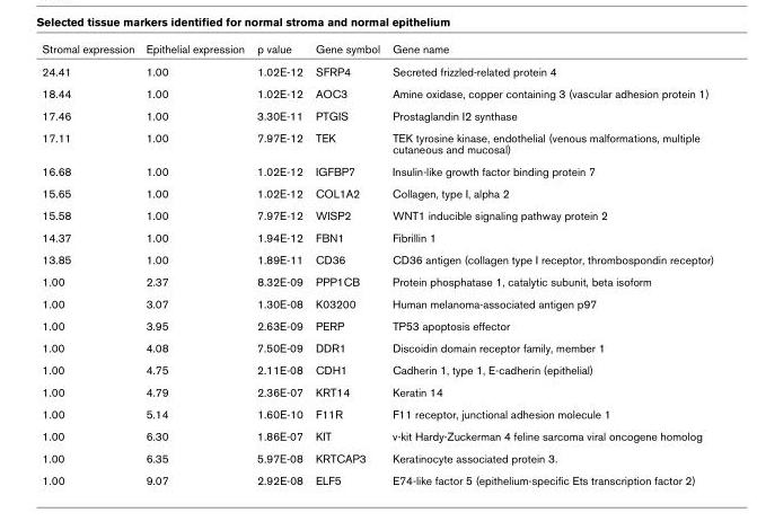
<table><thead><tr><td>Stromal expression</td><td>Epithelial expression</td><td>p value</td><td>Gene symbol</td><td>Gene name</td></tr></thead><tbody><tr><td>24.41</td><td>1.00</td><td>1.02E-12</td><td>SFRP4</td><td>Secreted frizzled-related protein 4</td></tr><tr><td>18.44</td><td>1.00</td><td>1.02E-12</td><td>AOC3</td><td>Amine oxidase, copper containing 3 (vascular adhesion protein 1)</td></tr><tr><td>17.46</td><td>1.00</td><td>3.30E-11</td><td>PTGIS</td><td>Prostaglandin I2 synthase</td></tr><tr><td>17.11</td><td>1.00</td><td>7.97E-12</td><td>TEK</td><td>TEK tyrosine kinase, endothelial (venous malformations, multiple cutaneous and mucosal)</td></tr><tr><td>16.68</td><td>1.00</td><td>1.02E-12</td><td>IGFBP7</td><td>Insulin-like growth factor binding protein 7</td></tr><tr><td>15.65</td><td>1.00</td><td>1.02E-12</td><td>COL1A2</td><td>Collagen, type I, alpha 2</td></tr><tr><td>15.58</td><td>1.00</td><td>7.97E-12</td><td>WISP2</td><td>WNT1 inducible signaling pathway protein 2</td></tr><tr><td>14.37</td><td>1.00</td><td>1.94E-12</td><td>FBN1</td><td>Fibrillin 1</td></tr><tr><td>13.85</td><td>1.00</td><td>1.89E-11</td><td>CD36</td><td>CD36 antigen (collagen type I receptor, thrombospondin receptor)</td></tr><tr><td>1.00</td><td>2.37</td><td>8.32E-09</td><td>PPP1CB</td><td>Protein phosphatase 1, catalytic subunit, beta isoform</td></tr><tr><td>1.00</td><td>3.07</td><td>1.30E-08</td><td>K03200</td><td>Human melanoma-associated antigen p97</td></tr><tr><td>1.00</td><td>3.95</td><td>2.63E-09</td><td>PERP</td><td>TP53 apoptosis effector</td></tr><tr><td>1.00</td><td>4.08</td><td>7.50E-09</td><td>DDR1</td><td>Discoidin domain receptor family, member 1</td></tr><tr><td>1.00</td><td>4.75</td><td>2.11E-08</td><td>CDH1</td><td>Cadherin 1, type 1, E-cadherin (epithelial)</td></tr><tr><td>1.00</td><td>4.79</td><td>2.36E-07</td><td>KRT14</td><td>Keratin 14</td></tr><tr><td>1.00</td><td>5.14</td><td>1.60E-10</td><td>F11R</td><td>F11 receptor, junctional adhesion molecule 1</td></tr><tr><td>1.00</td><td>6.30</td><td>1.86E-07</td><td>KIT</td><td>v-kit Hardy-Zuckerman 4 feline sarcoma viral oncogene homolog</td></tr><tr><td>1.00</td><td>6.35</td><td>5.97E-08</td><td>KRTCAP3</td><td>Keratinocyte associated protein 3.</td></tr><tr><td>1.00</td><td>9.07</td><td>2.92E-08</td><td>ELF5</td><td>E74-like factor 5 (epithelium-specific Ets transcription factor 2)</td></tr></tbody></table>